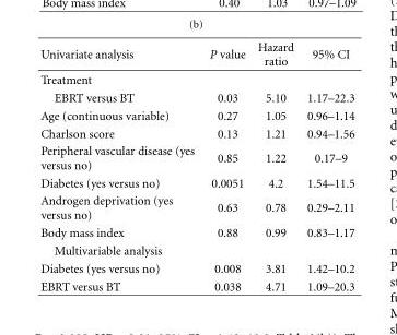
<table><thead><tr><td>Univariate analysis</td><td>P value</td><td>Hazard ratio</td><td>95% CI</td></tr></thead><tbody><tr><td colspan="4">Treatment</td></tr><tr><td>EBRT versus BT</td><td>0.03</td><td>5.10</td><td>1.17–22.3</td></tr><tr><td>Age (continuous variable)</td><td>0.27</td><td>1.05</td><td>0.96–1.14</td></tr><tr><td>Charlson score</td><td>0.13</td><td>1.21</td><td>0.94–1.56</td></tr><tr><td>Peripheral vascular disease (yes versus no)</td><td>0.85</td><td>1.22</td><td>0.17–9</td></tr><tr><td>Diabetes (yes versus no)</td><td>0.0051</td><td>4.2</td><td>1.54–11.5</td></tr><tr><td>Androgen deprivation (yes versus no)</td><td>0.63</td><td>0.78</td><td>0.29–2.11</td></tr><tr><td>Body mass index</td><td>0.88</td><td>0.99</td><td>0.83–1.17</td></tr><tr><td colspan="4">Multivariable analysis</td></tr><tr><td>Diabetes (yes versus no)</td><td>0.008</td><td>3.81</td><td>1.42–10.2</td></tr><tr><td>EBRT versus BT</td><td>0.038</td><td>4.71</td><td>1.09–20.3</td></tr></tbody></table>